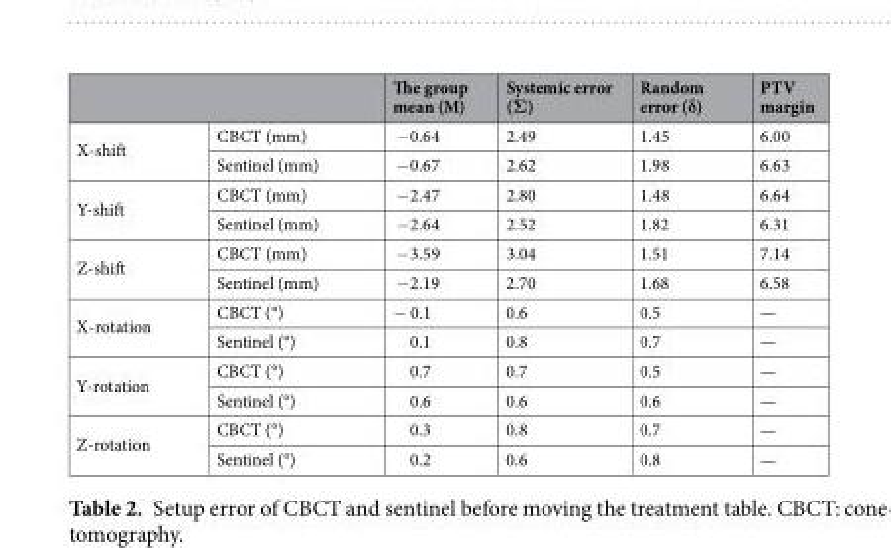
<table><thead><tr><td></td><td></td><td>The group mean (M)</td><td>Systemic error (Σ)</td><td>Random error (δ)</td><td>PTV margin</td></tr></thead><tbody><tr><td rowspan="2">X-shift</td><td>CBCT (mm)</td><td>−0.64</td><td>2.49</td><td>1.45</td><td>6.00</td></tr><tr><td>Sentinel (mm)</td><td>−0.67</td><td>2.62</td><td>1.98</td><td>6.63</td></tr><tr><td rowspan="2">Y-shift</td><td>CBCT (mm)</td><td>−2.47</td><td>2.80</td><td>1.48</td><td>6.64</td></tr><tr><td>Sentinel (mm)</td><td>−2.64</td><td>2.52</td><td>1.82</td><td>6.31</td></tr><tr><td rowspan="2">Z-shift</td><td>CBCT (mm)</td><td>−3.59</td><td>3.04</td><td>1.51</td><td>7.14</td></tr><tr><td>Sentinel (mm)</td><td>−2.19</td><td>2.70</td><td>1.68</td><td>6.58</td></tr><tr><td rowspan="2">X-rotation</td><td>CBCT (°)</td><td>− 0.1</td><td>0.6</td><td>0.5</td><td>—</td></tr><tr><td>Sentinel (°)</td><td>0.1</td><td>0.8</td><td>0.7</td><td>—</td></tr><tr><td rowspan="2">Y-rotation</td><td>CBCT (°)</td><td>0.7</td><td>0.7</td><td>0.5</td><td>—</td></tr><tr><td>Sentinel (°)</td><td>0.6</td><td>0.6</td><td>0.6</td><td>—</td></tr><tr><td rowspan="2">Z-rotation</td><td>CBCT (°)</td><td>0.3</td><td>0.8</td><td>0.7</td><td>—</td></tr><tr><td>Sentinel (°)</td><td>0.2</td><td>0.6</td><td>0.8</td><td>—</td></tr></tbody></table>